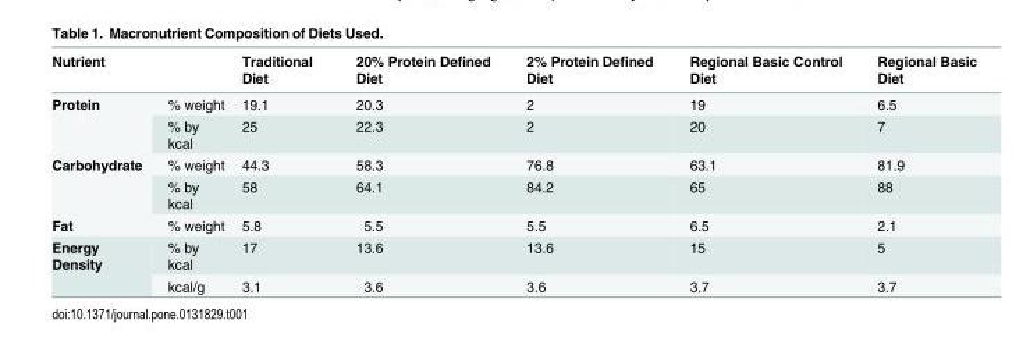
<table><thead><tr><td>Nutrient</td><td></td><td>Traditional Diet</td><td>20% Protein Defined Diet</td><td>2% Protein Defined Diet</td><td>Regional Basic Control Diet</td><td>Regional Basic Diet</td></tr></thead><tbody><tr><td rowspan="2">Protein</td><td>% weight</td><td>19.1</td><td>20.3</td><td>2</td><td>19</td><td>6.5</td></tr><tr><td>% by kcal</td><td>25</td><td>22.3</td><td>2</td><td>20</td><td>7</td></tr><tr><td rowspan="2">Carbohydrate</td><td>% weight</td><td>44.3</td><td>58.3</td><td>76.8</td><td>63.1</td><td>81.9</td></tr><tr><td>% by kcal</td><td>58</td><td>64.1</td><td>84.2</td><td>65</td><td>88</td></tr><tr><td>Fat</td><td>% weight</td><td>5.8</td><td>5.5</td><td>5.5</td><td>6.5</td><td>2.1</td></tr><tr><td rowspan="2">Energy Density</td><td>% by kcal</td><td>17</td><td>13.6</td><td>13.6</td><td>15</td><td>5</td></tr><tr><td>kcal/g</td><td>3.1</td><td>3.6</td><td>3.6</td><td>3.7</td><td>3.7</td></tr></tbody></table>